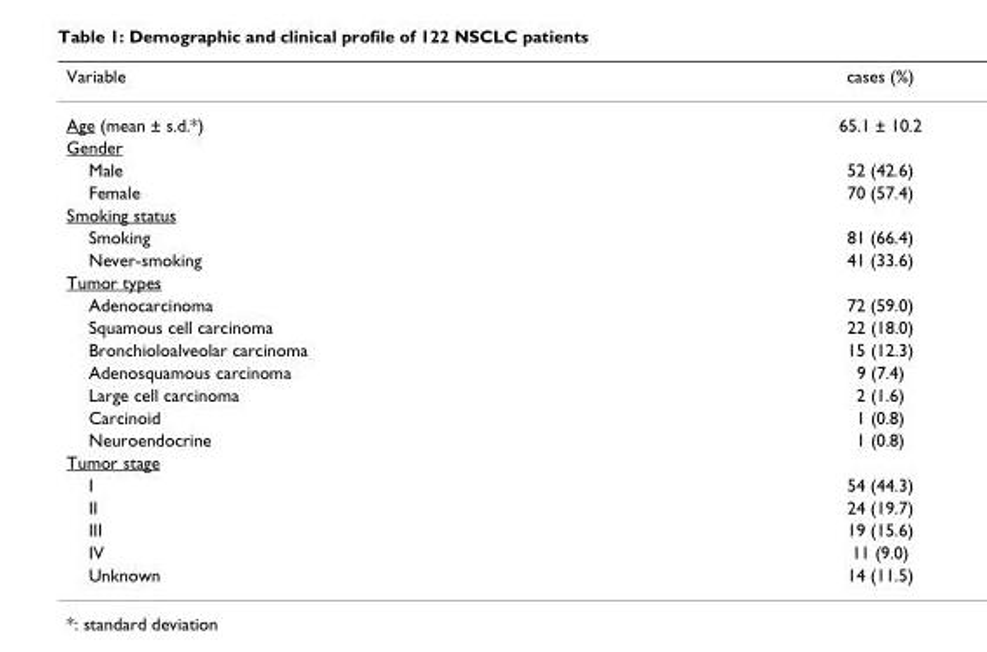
<table><thead><tr><td>Variable</td><td>cases (%)</td></tr></thead><tbody><tr><td>Age (mean ± s.d.*)</td><td>65.1 ± 10.2</td></tr><tr><td colspan="2">Gender</td></tr><tr><td>Male</td><td>52 (42.6)</td></tr><tr><td>Female</td><td>70 (57.4)</td></tr><tr><td colspan="2">Smoking status</td></tr><tr><td>Smoking</td><td>81 (66.4)</td></tr><tr><td>Never-smoking</td><td>41 (33.6)</td></tr><tr><td colspan="2">Tumor types</td></tr><tr><td>Adenocarcinoma</td><td>72 (59.0)</td></tr><tr><td>Squamous cell carcinoma</td><td>22 (18.0)</td></tr><tr><td>Bronchioloalveolar carcinoma</td><td>15 (12.3)</td></tr><tr><td>Adenosquamous carcinoma</td><td>9 (7.4)</td></tr><tr><td>Large cell carcinoma</td><td>2 (1.6)</td></tr><tr><td>Carcinoid</td><td>1 (0.8)</td></tr><tr><td>Neuroendocrine</td><td>1 (0.8)</td></tr><tr><td colspan="2">Tumor stage</td></tr><tr><td>I</td><td>54 (44.3)</td></tr><tr><td>II</td><td>24 (19.7)</td></tr><tr><td>III</td><td>19 (15.6)</td></tr><tr><td>IV</td><td>11 (9.0)</td></tr><tr><td>Unknown</td><td>14 (11.5)</td></tr></tbody></table>